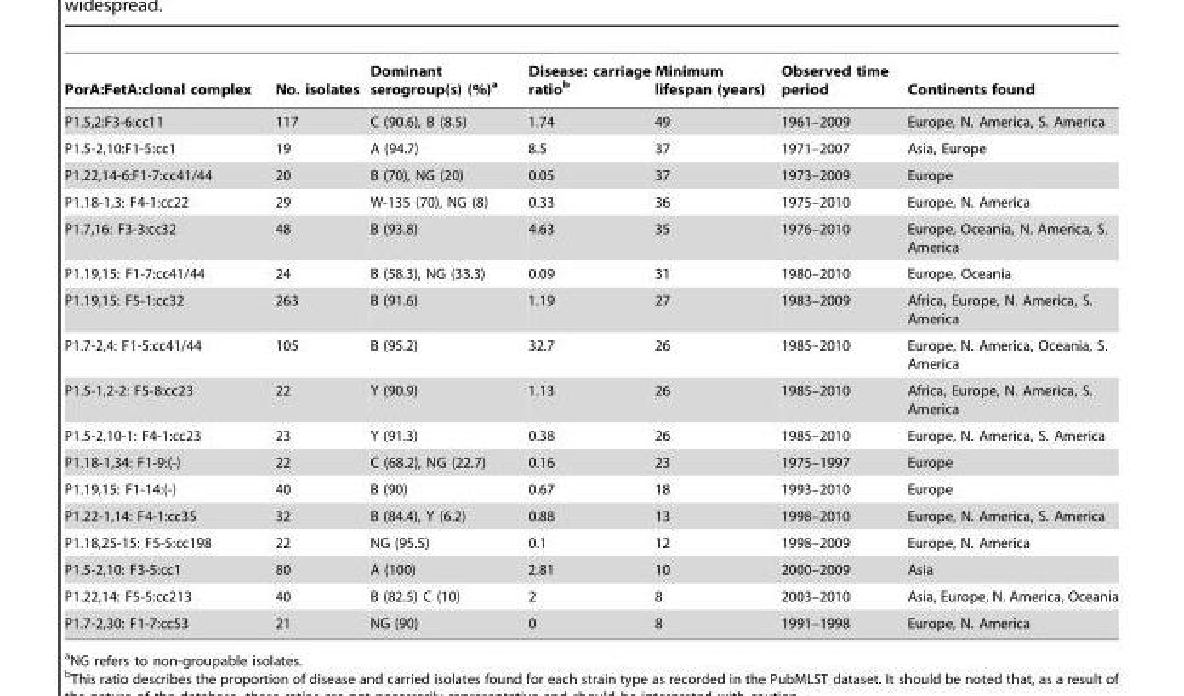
<table><thead><tr><td>PorA:FetA:clonal complex</td><td>No. isolates</td><td>Dominant serogroup(s) (%)<sup>a</sup></td><td>Disease: carriage ratio<sup>b</sup></td><td>Minimum lifespan (years)</td><td>Observed time period</td><td>Continents found</td></tr></thead><tbody><tr><td>P1.5,2:F3-6:cc11</td><td>117</td><td>C (90.6), B (8.5)</td><td>1.74</td><td>49</td><td>1961–2009</td><td>Europe, N. America, S. America</td></tr><tr><td>P1.5-2,10:F1-5:cc1</td><td>19</td><td>A (94.7)</td><td>8.5</td><td>37</td><td>1971–2007</td><td>Asia, Europe</td></tr><tr><td>P1.22,14-6:F1-7:cc41/44</td><td>20</td><td>B (70), NG (20)</td><td>0.05</td><td>37</td><td>1973–2009</td><td>Europe</td></tr><tr><td>P1.18-1,3: F4-1:cc22</td><td>29</td><td>W-135 (70), NG (8)</td><td>0.33</td><td>36</td><td>1975–2010</td><td>Europe, N. America</td></tr><tr><td>P1.7,16: F3-3:cc32</td><td>48</td><td>B (93.8)</td><td>4.63</td><td>35</td><td>1976–2010</td><td>Europe, Oceania, N. America, S. America</td></tr><tr><td>P1.19,15: F1-7:cc41/44</td><td>24</td><td>B (58.3), NG (33.3)</td><td>0.09</td><td>31</td><td>1980–2010</td><td>Europe, Oceania</td></tr><tr><td>P1.19,15: F5-1:cc32</td><td>263</td><td>B (91.6)</td><td>1.19</td><td>27</td><td>1983–2009</td><td>Africa, Europe, N. America, S. America</td></tr><tr><td>P1.7-2,4: F1-5:cc41/44</td><td>105</td><td>B (95.2)</td><td>32.7</td><td>26</td><td>1985–2010</td><td>Europe, N. America, Oceania, S. America</td></tr><tr><td>P1.5-1,2-2: F5-8:cc23</td><td>22</td><td>Y (90.9)</td><td>1.13</td><td>26</td><td>1985–2010</td><td>Africa, Europe, N. America, S. America</td></tr><tr><td>P1.5-2,10-1: F4-1:cc23</td><td>23</td><td>Y (91.3)</td><td>0.38</td><td>26</td><td>1985–2010</td><td>Europe, N. America, S. America</td></tr><tr><td>P1.18-1,34: F1-9:(-)</td><td>22</td><td>C (68.2), NG (22.7)</td><td>0.16</td><td>23</td><td>1975–1997</td><td>Europe</td></tr><tr><td>P1.19,15: F1-14:(-)</td><td>40</td><td>B (90)</td><td>0.67</td><td>18</td><td>1993–2010</td><td>Europe</td></tr><tr><td>P1.22-1,14: F4-1:cc35</td><td>32</td><td>B (84.4), Y (6.2)</td><td>0.88</td><td>13</td><td>1998–2010</td><td>Europe, N. America, S. America</td></tr><tr><td>P1.18,25-15: F5-5:cc198</td><td>22</td><td>NG (95.5)</td><td>0.1</td><td>12</td><td>1998–2009</td><td>Europe, N. America</td></tr><tr><td>P1.5-2,10: F3-5:cc1</td><td>80</td><td>A (100)</td><td>2.81</td><td>10</td><td>2000–2009</td><td>Asia</td></tr><tr><td>P1.22,14: F5-5:cc213</td><td>40</td><td>B (82.5) C (10)</td><td>2</td><td>8</td><td>2003–2010</td><td>Asia, Europe, N. America, Oceania</td></tr><tr><td>P1.7-2,30: F1-7:cc53</td><td>21</td><td>NG (90)</td><td>0</td><td>8</td><td>1991–1998</td><td>Europe, N. America</td></tr></tbody></table>